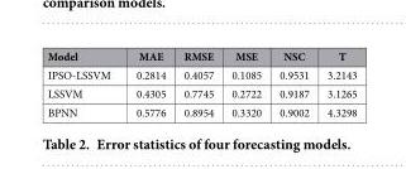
<table><thead><tr><td>Model</td><td>MAE</td><td>RMSE</td><td>MSE</td><td>NSC</td><td>T</td></tr></thead><tbody><tr><td>IPSO-LSSVM</td><td>0.2814</td><td>0.4057</td><td>0.1085</td><td>0.9531</td><td>3.2143</td></tr><tr><td>LSSVM</td><td>0.4305</td><td>0.7745</td><td>0.2722</td><td>0.9187</td><td>3.1265</td></tr><tr><td>BPNN</td><td>0.5776</td><td>0.8954</td><td>0.3320</td><td>0.9002</td><td>4.3298</td></tr></tbody></table>